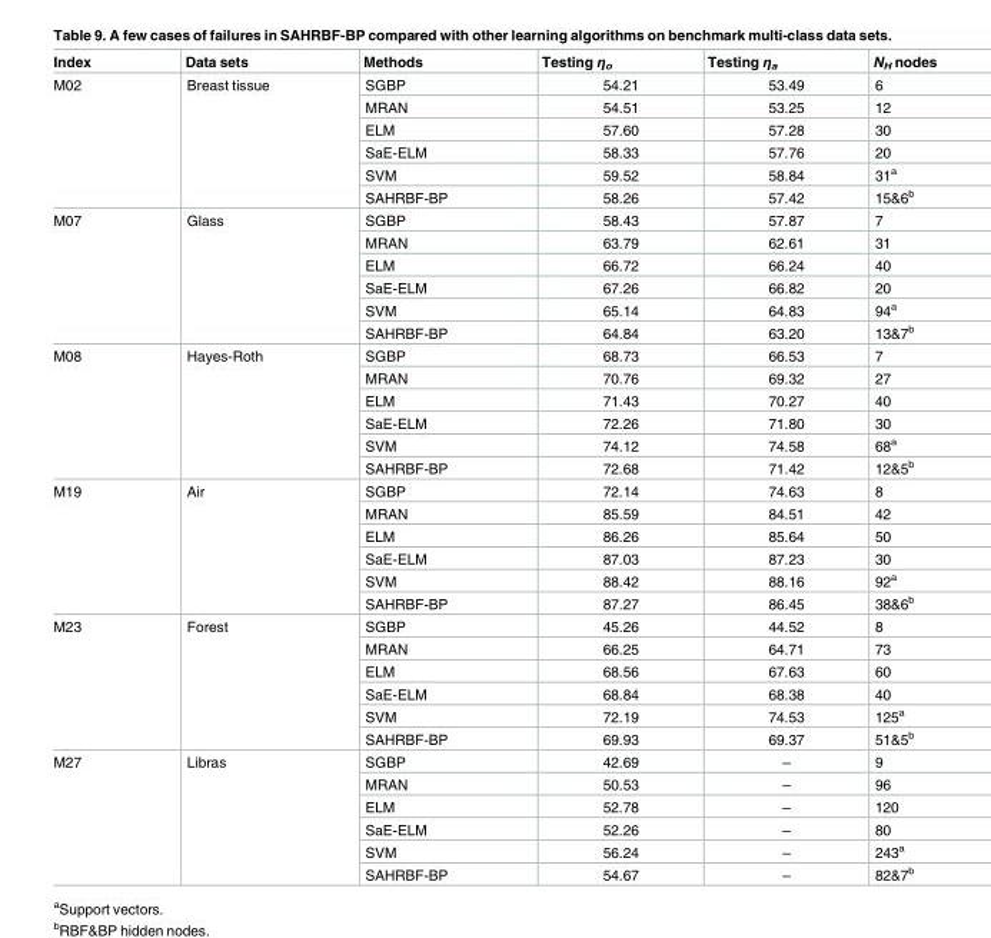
<table><thead><tr><td>Index</td><td>Data sets</td><td>Methods</td><td>Testing η<sub>o</sub></td><td>Testing η<sub>a</sub></td><td>N<sub>H</sub> nodes</td></tr></thead><tbody><tr><td rowspan="6">M02</td><td rowspan="6">Breast tissue</td><td>SGBP</td><td>54.21</td><td>53.49</td><td>6</td></tr><tr><td>MRAN</td><td>54.51</td><td>53.25</td><td>12</td></tr><tr><td>ELM</td><td>57.60</td><td>57.28</td><td>30</td></tr><tr><td>SaE-ELM</td><td>58.33</td><td>57.76</td><td>20</td></tr><tr><td>SVM</td><td>59.52</td><td>58.84</td><td>31<sup>a</sup></td></tr><tr><td>SAHRBF-BP</td><td>58.26</td><td>57.42</td><td>15&amp;6<sup>b</sup></td></tr><tr><td rowspan="6">M07</td><td rowspan="6">Glass</td><td>SGBP</td><td>58.43</td><td>57.87</td><td>7</td></tr><tr><td>MRAN</td><td>63.79</td><td>62.61</td><td>31</td></tr><tr><td>ELM</td><td>66.72</td><td>66.24</td><td>40</td></tr><tr><td>SaE-ELM</td><td>67.26</td><td>66.82</td><td>20</td></tr><tr><td>SVM</td><td>65.14</td><td>64.83</td><td>94<sup>a</sup></td></tr><tr><td>SAHRBF-BP</td><td>64.84</td><td>63.20</td><td>13&amp;7<sup>b</sup></td></tr><tr><td rowspan="6">M08</td><td rowspan="6">Hayes-Roth</td><td>SGBP</td><td>68.73</td><td>66.53</td><td>7</td></tr><tr><td>MRAN</td><td>70.76</td><td>69.32</td><td>27</td></tr><tr><td>ELM</td><td>71.43</td><td>70.27</td><td>40</td></tr><tr><td>SaE-ELM</td><td>72.26</td><td>71.80</td><td>30</td></tr><tr><td>SVM</td><td>74.12</td><td>74.58</td><td>68<sup>a</sup></td></tr><tr><td>SAHRBF-BP</td><td>72.68</td><td>71.42</td><td>12&amp;5<sup>b</sup></td></tr><tr><td rowspan="6">M19</td><td rowspan="6">Air</td><td>SGBP</td><td>72.14</td><td>74.63</td><td>8</td></tr><tr><td>MRAN</td><td>85.59</td><td>84.51</td><td>42</td></tr><tr><td>ELM</td><td>86.26</td><td>85.64</td><td>50</td></tr><tr><td>SaE-ELM</td><td>87.03</td><td>87.23</td><td>30</td></tr><tr><td>SVM</td><td>88.42</td><td>88.16</td><td>92<sup>a</sup></td></tr><tr><td>SAHRBF-BP</td><td>87.27</td><td>86.45</td><td>38&amp;6<sup>b</sup></td></tr><tr><td rowspan="6">M23</td><td rowspan="6">Forest</td><td>SGBP</td><td>45.26</td><td>44.52</td><td>8</td></tr><tr><td>MRAN</td><td>66.25</td><td>64.71</td><td>73</td></tr><tr><td>ELM</td><td>68.56</td><td>67.63</td><td>60</td></tr><tr><td>SaE-ELM</td><td>68.84</td><td>68.38</td><td>40</td></tr><tr><td>SVM</td><td>72.19</td><td>74.53</td><td>125<sup>a</sup></td></tr><tr><td>SAHRBF-BP</td><td>69.93</td><td>69.37</td><td>51&amp;5<sup>b</sup></td></tr><tr><td rowspan="6">M27</td><td rowspan="6">Libras</td><td>SGBP</td><td>42.69</td><td>–</td><td>9</td></tr><tr><td>MRAN</td><td>50.53</td><td>–</td><td>96</td></tr><tr><td>ELM</td><td>52.78</td><td>–</td><td>120</td></tr><tr><td>SaE-ELM</td><td>52.26</td><td>–</td><td>80</td></tr><tr><td>SVM</td><td>56.24</td><td>–</td><td>243<sup>a</sup></td></tr><tr><td>SAHRBF-BP</td><td>54.67</td><td>–</td><td>82&amp;7<sup>b</sup></td></tr></tbody></table>